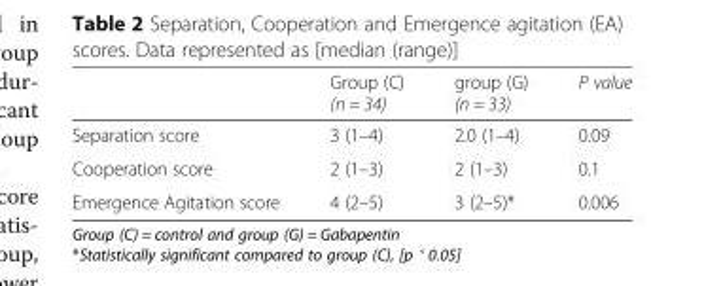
<table><thead><tr><td></td><td>Group (C) (n = 34)</td><td>group (G) (n = 33)</td><td>P value</td></tr></thead><tbody><tr><td>Separation score</td><td>3 (1–4)</td><td>2.0 (1–4)</td><td>0.09</td></tr><tr><td>Cooperation score</td><td>2 (1–3)</td><td>2 (1–3)</td><td>0.1</td></tr><tr><td>Emergence Agitation score</td><td>4 (2–5)</td><td>3 (2–5)*</td><td>0.006</td></tr></tbody></table>